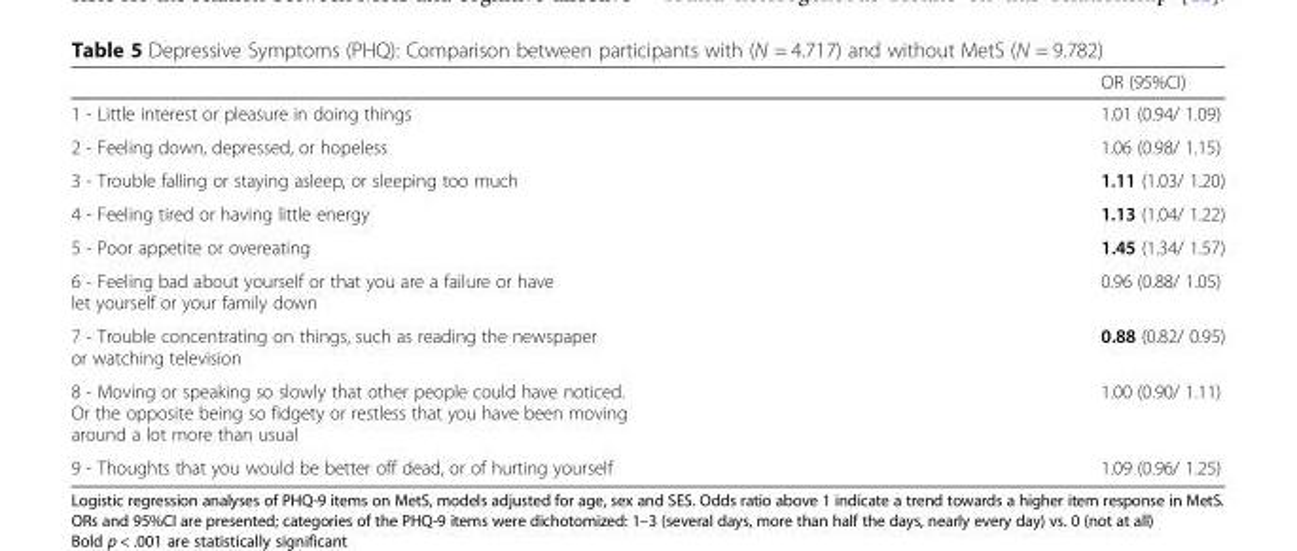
<table><thead><tr><td></td><td>OR (95%CI)</td></tr></thead><tbody><tr><td>1 - Little interest or pleasure in doing things</td><td>1.01 (0.94/ 1.09)</td></tr><tr><td>2 - Feeling down, depressed, or hopeless</td><td>1.06 (0.98/ 1.15)</td></tr><tr><td>3 - Trouble falling or staying asleep, or sleeping too much</td><td>1.11 (1.03/ 1.20)</td></tr><tr><td>4 - Feeling tired or having little energy</td><td>1.13 (1.04/ 1.22)</td></tr><tr><td>5 - Poor appetite or overeating</td><td>1.45 (1.34/ 1.57)</td></tr><tr><td>6 - Feeling bad about yourself or that you are a failure or have let yourself or your family down</td><td>0.96 (0.88/ 1.05)</td></tr><tr><td>7 - Trouble concentrating on things, such as reading the newspaper or watching television</td><td>0.88 (0.82/ 0.95)</td></tr><tr><td>8 - Moving or speaking so slowly that other people could have noticed. Or the opposite being so fidgety or restless that you have been moving around a lot more than usual</td><td>1.00 (0.90/ 1.11)</td></tr><tr><td>9 - Thoughts that you would be better off dead, or of hurting yourself</td><td>1.09 (0.96/ 1.25)</td></tr></tbody></table>